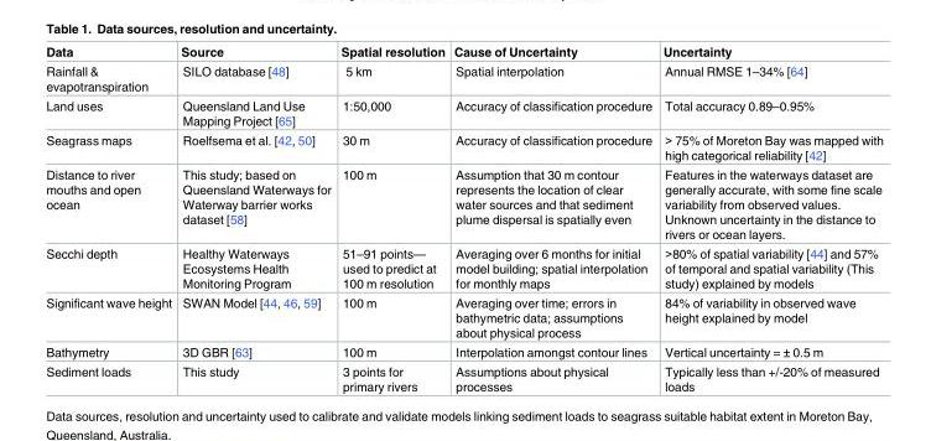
<table><thead><tr><td>Data</td><td>Source</td><td>Spatial resolution</td><td>Cause of Uncertainty</td><td>Uncertainty</td></tr></thead><tbody><tr><td>Rainfall &amp; evapotranspiration</td><td>SILO database [48]</td><td>5 km</td><td>Spatial interpolation</td><td>Annual RMSE 1–34% [64]</td></tr><tr><td>Land uses</td><td>Queensland Land Use Mapping Project [65]</td><td>1:50,000</td><td>Accuracy of classification procedure</td><td>Total accuracy 0.89–0.95%</td></tr><tr><td>Seagrass maps</td><td>Roelfsema et al. [42, 50]</td><td>30 m</td><td>Accuracy of classification procedure</td><td>&gt; 75% of Moreton Bay was mapped with high categorical reliability [42]</td></tr><tr><td>Distance to river mouths and open ocean</td><td>This study; based on Queensland Waterways for Waterway barrier works dataset [58]</td><td>100 m</td><td>Assumption that 30 m contour represents the location of clear water sources and that sediment plume dispersal is spatially even</td><td>Features in the waterways dataset are generally accurate, with some fine scale variability from observed values. Unknown uncertainty in the distance to rivers or ocean layers.</td></tr><tr><td>Secchi depth</td><td>Healthy Waterways Ecosystems Health Monitoring Program</td><td>51–91 points— used to predict at 100 m resolution</td><td>Averaging over 6 months for initial model building; spatial interpolation for monthly maps</td><td>&gt;80% of spatial variability [44] and 57% of temporal and spatial variability (This study) explained by models</td></tr><tr><td>Significant wave height</td><td>SWAN Model [44, 46, 59]</td><td>100 m</td><td>Averaging over time; errors in bathymetric data; assumptions about physical process</td><td>84% of variability in observed wave height explained by model</td></tr><tr><td>Bathymetry</td><td>3D GBR [63]</td><td>100 m</td><td>Interpolation amongst contour lines</td><td>Vertical uncertainty = ± 0.5 m</td></tr><tr><td>Sediment loads</td><td>This study</td><td>3 points for primary rivers</td><td>Assumptions about physical processes</td><td>Typically less than +/-20% of measured loads</td></tr></tbody></table>